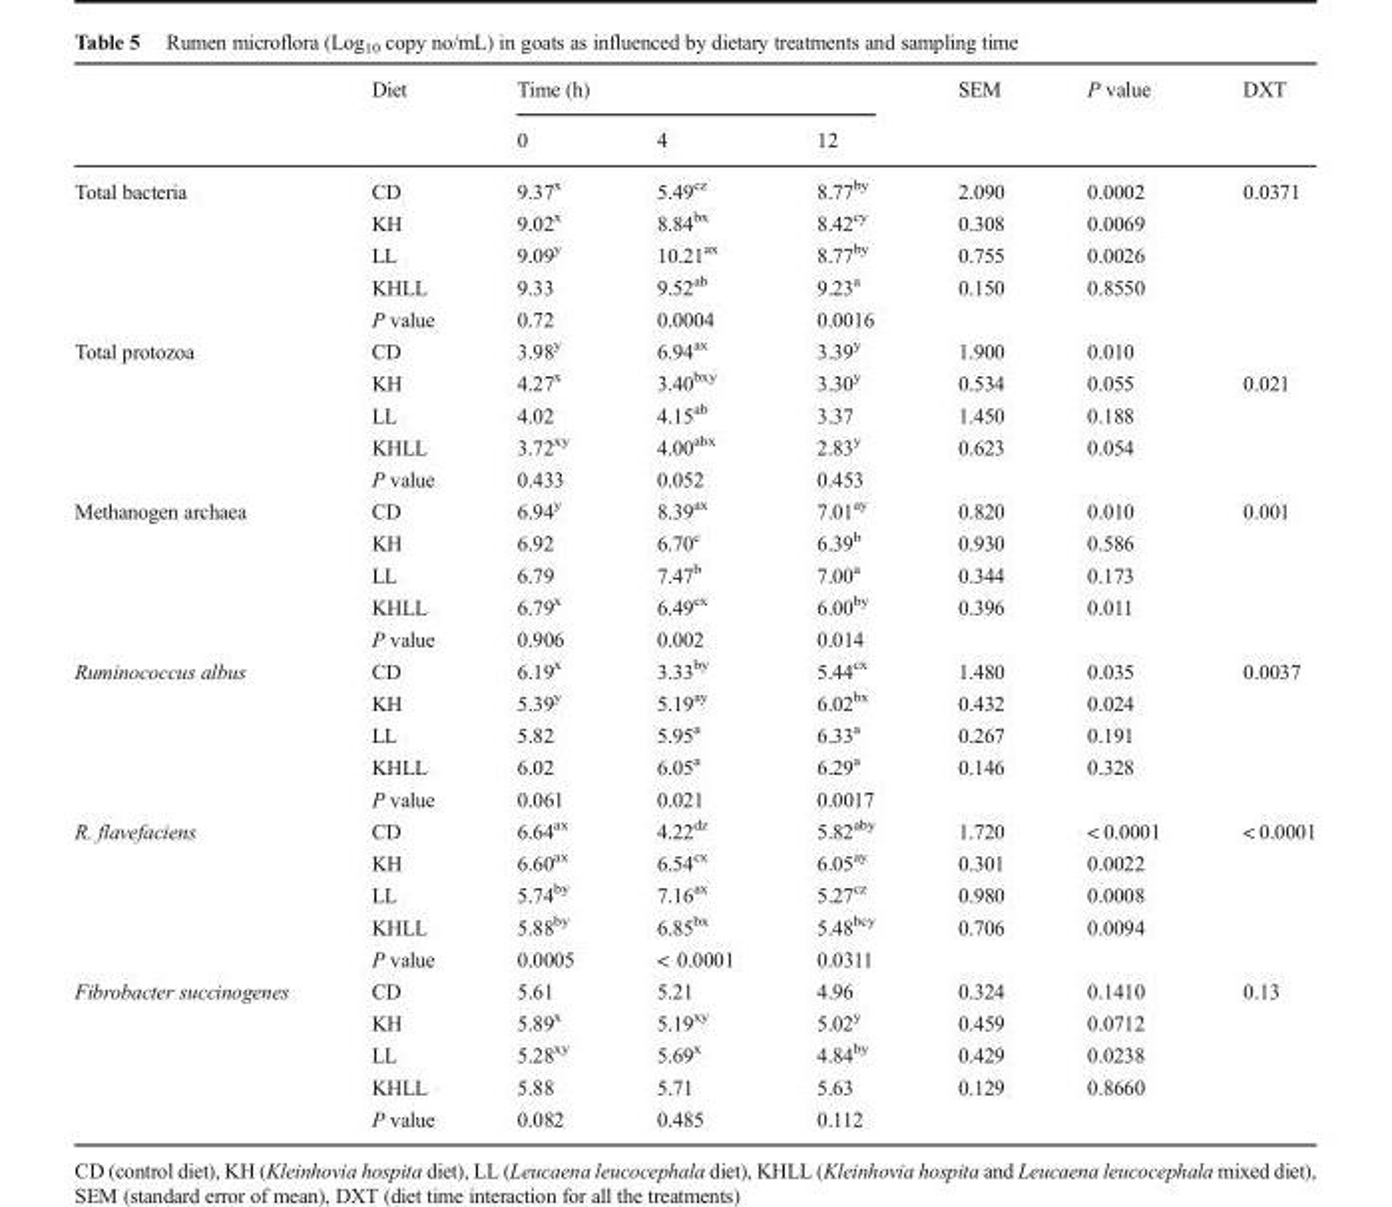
<table><thead><tr><td rowspan="2"></td><td rowspan="2">Diet</td><td colspan="3">Time (h)</td><td rowspan="2">SEM</td><td rowspan="2">P value</td><td rowspan="2">DXT</td></tr><tr><td>0</td><td>4</td><td>12</td></tr></thead><tbody><tr><td rowspan="5">Total bacteria</td><td>CD</td><td>9.37<sup>x</sup></td><td>5.49<sup>cz</sup></td><td>8.77<sup>by</sup></td><td>2.090</td><td>0.0002</td><td>0.0371</td></tr><tr><td>KH</td><td>9.02<sup>x</sup></td><td>8.84<sup>bx</sup></td><td>8.42<sup>cy</sup></td><td>0.308</td><td>0.0069</td><td></td></tr><tr><td>LL</td><td>9.09<sup>y</sup></td><td>10.21<sup>ax</sup></td><td>8.77<sup>by</sup></td><td>0.755</td><td>0.0026</td><td></td></tr><tr><td>KHLL</td><td>9.33</td><td>9.52<sup>ab</sup></td><td>9.23<sup>a</sup></td><td>0.150</td><td>0.8550</td><td></td></tr><tr><td>P value</td><td>0.72</td><td>0.0004</td><td>0.0016</td><td></td><td></td><td></td></tr><tr><td rowspan="5">Total protozoa</td><td>CD</td><td>3.98<sup>y</sup></td><td>6.94<sup>ax</sup></td><td>3.39<sup>y</sup></td><td>1.900</td><td>0.010</td><td></td></tr><tr><td>KH</td><td>4.27<sup>x</sup></td><td>3.40<sup>bxy</sup></td><td>3.30<sup>y</sup></td><td>0.534</td><td>0.055</td><td>0.021</td></tr><tr><td>LL</td><td>4.02</td><td>4.15<sup>ab</sup></td><td>3.37</td><td>1.450</td><td>0.188</td><td></td></tr><tr><td>KHLL</td><td>3.72<sup>xy</sup></td><td>4.00<sup>abx</sup></td><td>2.83<sup>y</sup></td><td>0.623</td><td>0.054</td><td></td></tr><tr><td>P value</td><td>0.433</td><td>0.052</td><td>0.453</td><td></td><td></td><td></td></tr><tr><td rowspan="5">Methanogen archaea</td><td>CD</td><td>6.94<sup>y</sup></td><td>8.39<sup>ax</sup></td><td>7.01<sup>ay</sup></td><td>0.820</td><td>0.010</td><td>0.001</td></tr><tr><td>KH</td><td>6.92</td><td>6.70<sup>c</sup></td><td>6.39<sup>b</sup></td><td>0.930</td><td>0.586</td><td></td></tr><tr><td>LL</td><td>6.79</td><td>7.47<sup>b</sup></td><td>7.00<sup>a</sup></td><td>0.344</td><td>0.173</td><td></td></tr><tr><td>KHLL</td><td>6.79<sup>x</sup></td><td>6.49<sup>cx</sup></td><td>6.00<sup>by</sup></td><td>0.396</td><td>0.011</td><td></td></tr><tr><td>P value</td><td>0.906</td><td>0.002</td><td>0.014</td><td></td><td></td><td></td></tr><tr><td rowspan="5">Ruminococcus albus</td><td>CD</td><td>6.19<sup>x</sup></td><td>3.33<sup>by</sup></td><td>5.44<sup>cx</sup></td><td>1.480</td><td>0.035</td><td>0.0037</td></tr><tr><td>KH</td><td>5.39<sup>y</sup></td><td>5.19<sup>ay</sup></td><td>6.02<sup>bx</sup></td><td>0.432</td><td>0.024</td><td></td></tr><tr><td>LL</td><td>5.82</td><td>5.95<sup>a</sup></td><td>6.33<sup>a</sup></td><td>0.267</td><td>0.191</td><td></td></tr><tr><td>KHLL</td><td>6.02</td><td>6.05<sup>a</sup></td><td>6.29<sup>a</sup></td><td>0.146</td><td>0.328</td><td></td></tr><tr><td>P value</td><td>0.061</td><td>0.021</td><td>0.0017</td><td></td><td></td><td></td></tr><tr><td rowspan="5">R. flavefaciens</td><td>CD</td><td>6.64<sup>ax</sup></td><td>4.22<sup>dz</sup></td><td>5.82<sup>aby</sup></td><td>1.720</td><td>&lt; 0.0001</td><td>&lt; 0.0001</td></tr><tr><td>KH</td><td>6.60<sup>ax</sup></td><td>6.54<sup>cx</sup></td><td>6.05<sup>ay</sup></td><td>0.301</td><td>0.0022</td><td></td></tr><tr><td>LL</td><td>5.74<sup>by</sup></td><td>7.16<sup>ax</sup></td><td>5.27<sup>cz</sup></td><td>0.980</td><td>0.0008</td><td></td></tr><tr><td>KHLL</td><td>5.88<sup>by</sup></td><td>6.85<sup>bx</sup></td><td>5.48<sup>bcy</sup></td><td>0.706</td><td>0.0094</td><td></td></tr><tr><td>P value</td><td>0.0005</td><td>&lt; 0.0001</td><td>0.0311</td><td></td><td></td><td></td></tr><tr><td rowspan="5">Fibrobacter succinogenes</td><td>CD</td><td>5.61</td><td>5.21</td><td>4.96</td><td>0.324</td><td>0.1410</td><td>0.13</td></tr><tr><td>KH</td><td>5.89<sup>x</sup></td><td>5.19<sup>xy</sup></td><td>5.02<sup>y</sup></td><td>0.459</td><td>0.0712</td><td></td></tr><tr><td>LL</td><td>5.28<sup>xy</sup></td><td>5.69<sup>x</sup></td><td>4.84<sup>by</sup></td><td>0.429</td><td>0.0238</td><td></td></tr><tr><td>KHLL</td><td>5.88</td><td>5.71</td><td>5.63</td><td>0.129</td><td>0.8660</td><td></td></tr><tr><td>P value</td><td>0.082</td><td>0.485</td><td>0.112</td><td></td><td></td><td></td></tr></tbody></table>